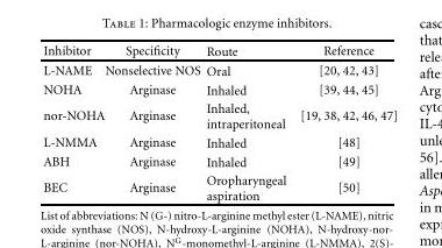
<table><thead><tr><td>Inhibitor</td><td>Specificity</td><td>Route</td><td>Reference</td></tr></thead><tbody><tr><td>L-NAME</td><td>Nonselective NOS</td><td>Oral</td><td>[20, 42, 43]</td></tr><tr><td>NOHA</td><td>Arginase</td><td>Inhaled</td><td>[39, 44, 45]</td></tr><tr><td>nor-NOHA</td><td>Arginase</td><td>Inhaled, intraperitoneal</td><td>[19, 38, 42, 46, 47]</td></tr><tr><td>L-NMMA</td><td>Arginase</td><td>Inhaled</td><td>[48]</td></tr><tr><td>ABH</td><td>Arginase</td><td>Inhaled</td><td>[49]</td></tr><tr><td>BEC</td><td>Arginase</td><td>Oropharyngeal aspiration</td><td>[50]</td></tr></tbody></table>